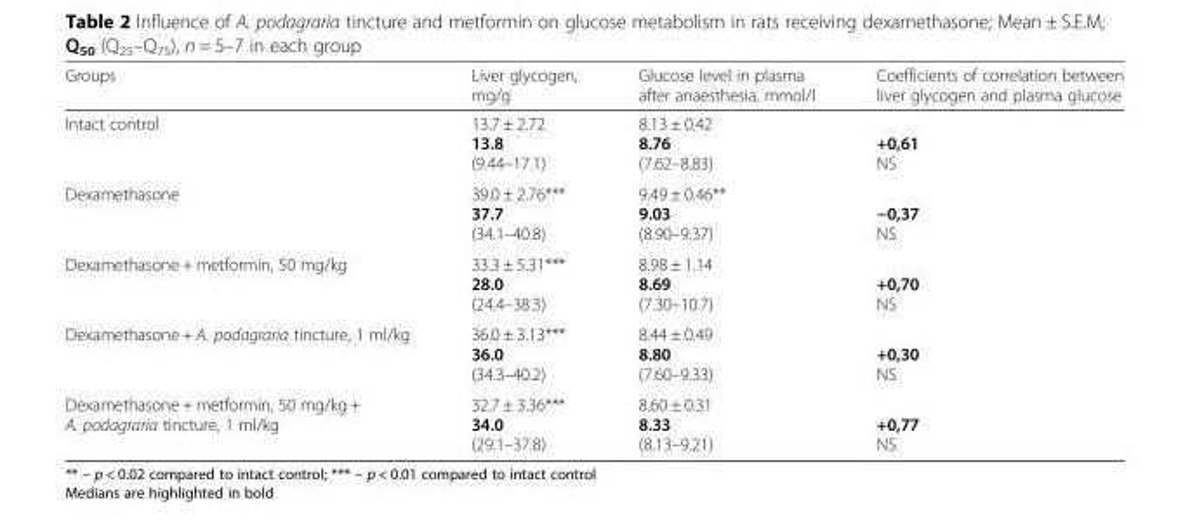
<table><thead><tr><td>Groups</td><td>Liver glycogen, mg/g</td><td>Glucose level in plasma after anaesthesia, mmol/l</td><td>Coefficients of correlation between liver glycogen and plasma glucose</td></tr></thead><tbody><tr><td>Intact control</td><td>13.7 ± 2.72 13.8 (9.44–17.1)</td><td>8.13 ± 0.42 8.76 (7.62–8.83)</td><td>+0,61 NS</td></tr><tr><td>Dexamethasone</td><td>39.0 ± 2.76*** 37.7 (34.1–40.8)</td><td>9.49 ± 0.46** 9.03 (8.90–9.37)</td><td>−0,37 NS</td></tr><tr><td>Dexamethasone + metformin, 50 mg/kg</td><td>33.3 ± 5.31*** 28.0 (24.4–38.3)</td><td>8.98 ± 1.14 8.69 (7.30–10.7)</td><td>+0,70 NS</td></tr><tr><td>Dexamethasone + A. podagraria tincture, 1 ml/kg</td><td>36.0 ± 3.13*** 36.0 (34.3–40.2)</td><td>8.44 ± 0.49 8.80 (7.60–9.33)</td><td>+0,30 NS</td></tr><tr><td>Dexamethasone + metformin, 50 mg/kg + A. podagraria tincture, 1 ml/kg</td><td>32.7 ± 3.36*** 34.0 (29.1–37.8)</td><td>8.60 ± 0.31 8.33 (8.13–9.21)</td><td>+0,77 NS</td></tr></tbody></table>